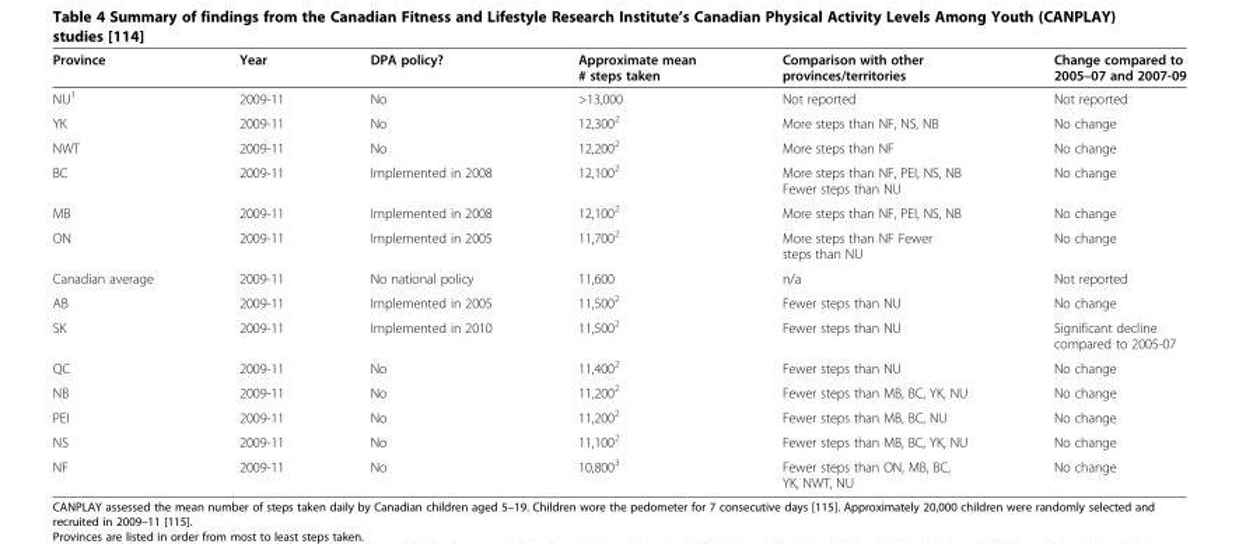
<table><thead><tr><td>Province</td><td>Year</td><td>DPA policy?</td><td>Approximate mean # steps taken</td><td>Comparison with other provinces/territories</td><td>Change compared to 2005–07 and 2007-09</td></tr></thead><tbody><tr><td>NU<sup>1</sup></td><td>2009-11</td><td>No</td><td>&gt;13,000</td><td>Not reported</td><td>Not reported</td></tr><tr><td>YK</td><td>2009-11</td><td>No</td><td>12,300<sup>2</sup></td><td>More steps than NF, NS, NB</td><td>No change</td></tr><tr><td>NWT</td><td>2009-11</td><td>No</td><td>12,200<sup>2</sup></td><td>More steps than NF</td><td>No change</td></tr><tr><td>BC</td><td>2009-11</td><td>Implemented in 2008</td><td>12,100<sup>2</sup></td><td>More steps than NF, PEI, NS, NB Fewer steps than NU</td><td>No change</td></tr><tr><td>MB</td><td>2009-11</td><td>Implemented in 2008</td><td>12,100<sup>2</sup></td><td>More steps than NF, PEI, NS, NB</td><td>No change</td></tr><tr><td>ON</td><td>2009-11</td><td>Implemented in 2005</td><td>11,700<sup>2</sup></td><td>More steps than NF Fewer steps than NU</td><td>No change</td></tr><tr><td>Canadian average</td><td>2009-11</td><td>No national policy</td><td>11,600</td><td>n/a</td><td>Not reported</td></tr><tr><td>AB</td><td>2009-11</td><td>Implemented in 2005</td><td>11,500<sup>2</sup></td><td>Fewer steps than NU</td><td>No change</td></tr><tr><td>SK</td><td>2009-11</td><td>Implemented in 2010</td><td>11,500<sup>2</sup></td><td>Fewer steps than NU</td><td>Significant decline compared to 2005-07</td></tr><tr><td>QC</td><td>2009-11</td><td>No</td><td>11,400<sup>2</sup></td><td>Fewer steps than NU</td><td>No change</td></tr><tr><td>NB</td><td>2009-11</td><td>No</td><td>11,200<sup>2</sup></td><td>Fewer steps than MB, BC, YK, NU</td><td>No change</td></tr><tr><td>PEI</td><td>2009-11</td><td>No</td><td>11,200<sup>2</sup></td><td>Fewer steps than MB, BC, NU</td><td>No change</td></tr><tr><td>NS</td><td>2009-11</td><td>No</td><td>11,100<sup>2</sup></td><td>Fewer steps than MB, BC, YK, NU</td><td>No change</td></tr><tr><td>NF</td><td>2009-11</td><td>No</td><td>10,800<sup>3</sup></td><td>Fewer steps than ON, MB, BC, YK, NWT, NU</td><td>No change</td></tr></tbody></table>